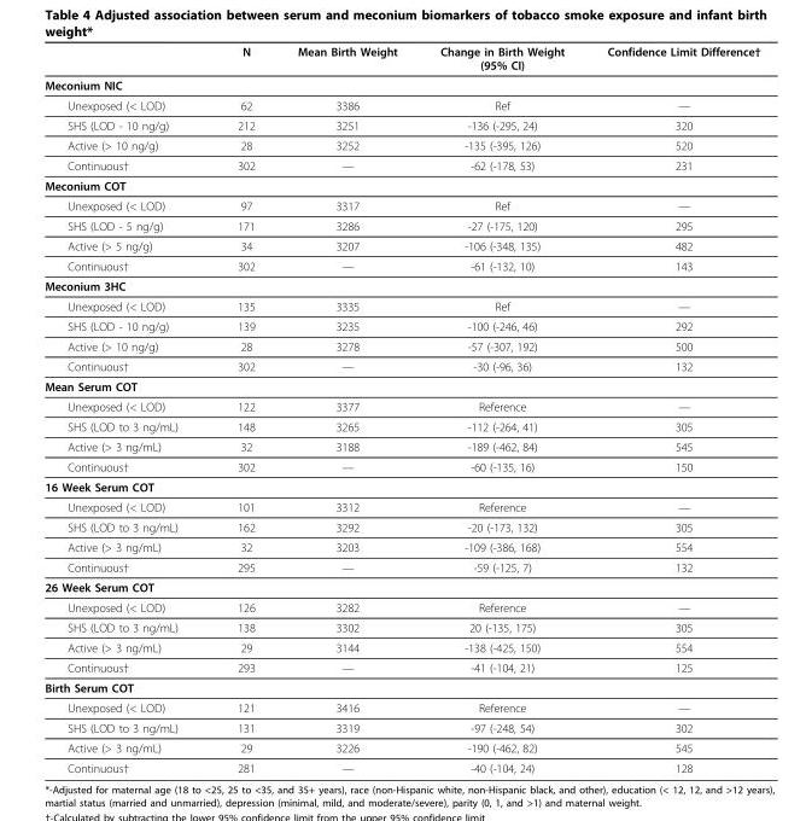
<table><thead><tr><td></td><td>N</td><td>Mean Birth Weight</td><td>Change in Birth Weight (95% CI)</td><td>Confidence Limit Difference†</td></tr></thead><tbody><tr><td colspan="5">Meconium NIC</td></tr><tr><td>Unexposed (&lt; LOD)</td><td>62</td><td>3386</td><td>Ref</td><td>—</td></tr><tr><td>SHS (LOD - 10 ng/g)</td><td>212</td><td>3251</td><td>-136 (-295, 24)</td><td>320</td></tr><tr><td>Active (&gt; 10 ng/g)</td><td>28</td><td>3252</td><td>-135 (-395, 126)</td><td>520</td></tr><tr><td>Continuous†</td><td>302</td><td>—</td><td>-62 (-178, 53)</td><td>231</td></tr><tr><td colspan="5">Meconium COT</td></tr><tr><td>Unexposed (&lt; LOD)</td><td>97</td><td>3317</td><td>Ref</td><td>—</td></tr><tr><td>SHS (LOD - 5 ng/g)</td><td>171</td><td>3286</td><td>-27 (-175, 120)</td><td>295</td></tr><tr><td>Active (&gt; 5 ng/g)</td><td>34</td><td>3207</td><td>-106 (-348, 135)</td><td>482</td></tr><tr><td>Continuous†</td><td>302</td><td>—</td><td>-61 (-132, 10)</td><td>143</td></tr><tr><td colspan="5">Meconium 3HC</td></tr><tr><td>Unexposed (&lt; LOD)</td><td>135</td><td>3335</td><td>Ref</td><td>—</td></tr><tr><td>SHS (LOD - 10 ng/g)</td><td>139</td><td>3235</td><td>-100 (-246, 46)</td><td>292</td></tr><tr><td>Active (&gt; 10 ng/g)</td><td>28</td><td>3278</td><td>-57 (-307, 192)</td><td>500</td></tr><tr><td>Continuous†</td><td>302</td><td>—</td><td>-30 (-96, 36)</td><td>132</td></tr><tr><td colspan="5">Mean Serum COT</td></tr><tr><td>Unexposed (&lt; LOD)</td><td>122</td><td>3377</td><td>Reference</td><td>—</td></tr><tr><td>SHS (LOD to 3 ng/mL)</td><td>148</td><td>3265</td><td>-112 (-264, 41)</td><td>305</td></tr><tr><td>Active (&gt; 3 ng/mL)</td><td>32</td><td>3188</td><td>-189 (-462, 84)</td><td>545</td></tr><tr><td>Continuous†</td><td>302</td><td>—</td><td>-60 (-135, 16)</td><td>150</td></tr><tr><td colspan="5">16 Week Serum COT</td></tr><tr><td>Unexposed (&lt; LOD)</td><td>101</td><td>3312</td><td>Reference</td><td>—</td></tr><tr><td>SHS (LOD to 3 ng/mL)</td><td>162</td><td>3292</td><td>-20 (-173, 132)</td><td>305</td></tr><tr><td>Active (&gt; 3 ng/mL)</td><td>32</td><td>3203</td><td>-109 (-386, 168)</td><td>554</td></tr><tr><td>Continuous†</td><td>295</td><td>—</td><td>-59 (-125, 7)</td><td>132</td></tr><tr><td colspan="5">26 Week Serum COT</td></tr><tr><td>Unexposed (&lt; LOD)</td><td>126</td><td>3282</td><td>Reference</td><td>—</td></tr><tr><td>SHS (LOD to 3 ng/mL)</td><td>138</td><td>3302</td><td>20 (-135, 175)</td><td>305</td></tr><tr><td>Active (&gt; 3 ng/mL)</td><td>29</td><td>3144</td><td>-138 (-425, 150)</td><td>554</td></tr><tr><td>Continuous†</td><td>293</td><td>—</td><td>-41 (-104, 21)</td><td>125</td></tr><tr><td colspan="5">Birth Serum COT</td></tr><tr><td>Unexposed (&lt; LOD)</td><td>121</td><td>3416</td><td>Reference</td><td>—</td></tr><tr><td>SHS (LOD to 3 ng/mL)</td><td>131</td><td>3319</td><td>-97 (-248, 54)</td><td>302</td></tr><tr><td>Active (&gt; 3 ng/mL)</td><td>29</td><td>3226</td><td>-190 (-462, 82)</td><td>545</td></tr><tr><td>Continuous†</td><td>281</td><td>—</td><td>-40 (-104, 24)</td><td>128</td></tr></tbody></table>